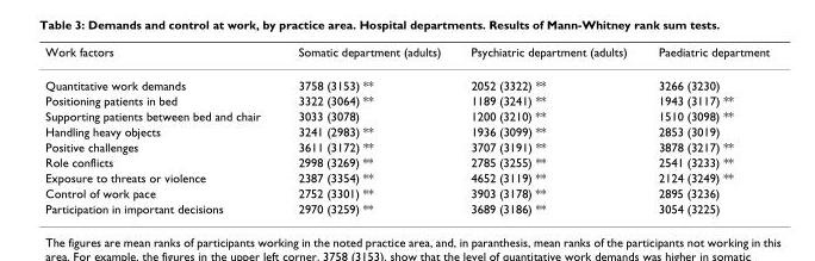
<table><thead><tr><td>Work factors</td><td>Somatic department (adults)</td><td>Psychiatric department (adults)</td><td>Paediatric department</td></tr></thead><tbody><tr><td>Quantitative work demands</td><td>3758 (3153) **</td><td>2052 (3322) **</td><td>3266 (3230)</td></tr><tr><td>Positioning patients in bed</td><td>3322 (3064) **</td><td>1189 (3241) **</td><td>1943 (3117) **</td></tr><tr><td>Supporting patients between bed and chair</td><td>3033 (3078)</td><td>1200 (3210) **</td><td>1510 (3098) **</td></tr><tr><td>Handling heavy objects</td><td>3241 (2983) **</td><td>1936 (3099) **</td><td>2853 (3019)</td></tr><tr><td>Positive challenges</td><td>3611 (3172) **</td><td>3707 (3191) **</td><td>3878 (3217) **</td></tr><tr><td>Role conflicts</td><td>2998 (3269) **</td><td>2785 (3255) **</td><td>2541 (3233) **</td></tr><tr><td>Exposure to threats or violence</td><td>2387 (3354) **</td><td>4652 (3119) **</td><td>2124 (3249) **</td></tr><tr><td>Control of work pace</td><td>2752 (3301) **</td><td>3903 (3178) **</td><td>2895 (3236)</td></tr><tr><td>Participation in important decisions</td><td>2970 (3259) **</td><td>3689 (3186) **</td><td>3054 (3225)</td></tr></tbody></table>